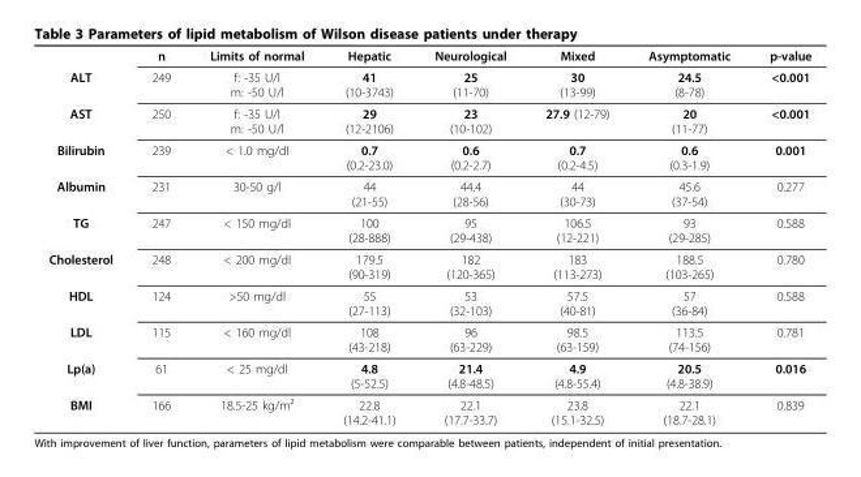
<table><thead><tr><td></td><td>n</td><td>Limits of normal</td><td>Hepatic</td><td>Neurological</td><td>Mixed</td><td>Asymptomatic</td><td>p-value</td></tr></thead><tbody><tr><td>ALT</td><td>249</td><td>f: -35 U/l m: -50 U/l</td><td>41 (10-3743)</td><td>25 (11-70)</td><td>30 (13-99)</td><td>24.5 (8-78)</td><td>&lt;0.001</td></tr><tr><td>AST</td><td>250</td><td>f: -35 U/l m: -50 U/l</td><td>29 (12-2106)</td><td>23 (10-102)</td><td>27.9 (12-79)</td><td>20 (11-77)</td><td>&lt;0.001</td></tr><tr><td>Bilirubin</td><td>239</td><td>&lt; 1.0 mg/dl</td><td>0.7 (0.2-23.0)</td><td>0.6 (0.2-2.7)</td><td>0.7 (0.2-4.5)</td><td>0.6 (0.3-1.9)</td><td>0.001</td></tr><tr><td>Albumin</td><td>231</td><td>30-50 g/l</td><td>44 (21-55)</td><td>44.4 (28-56)</td><td>44 (30-73)</td><td>45.6 (37-54)</td><td>0.277</td></tr><tr><td>TG</td><td>247</td><td>&lt; 150 mg/dl</td><td>100 (28-888)</td><td>95 (29-438)</td><td>106.5 (12-221)</td><td>93 (29-285)</td><td>0.588</td></tr><tr><td>Cholesterol</td><td>248</td><td>&lt; 200 mg/dl</td><td>179.5 (90-319)</td><td>182 (120-365)</td><td>183 (113-273)</td><td>188.5 (103-265)</td><td>0.780</td></tr><tr><td>HDL</td><td>124</td><td>&gt;50 mg/dl</td><td>55 (27-113)</td><td>53 (32-103)</td><td>57.5 (40-81)</td><td>57 (36-84)</td><td>0.588</td></tr><tr><td>LDL</td><td>115</td><td>&lt; 160 mg/dl</td><td>108 (43-218)</td><td>96 (63-229)</td><td>98.5 (63-159)</td><td>113.5 (74-156)</td><td>0.781</td></tr><tr><td>Lp(a)</td><td>61</td><td>&lt; 25 mg/dl</td><td>4.8 (5-52.5)</td><td>21.4 (4.8-48.5)</td><td>4.9 (4.8-55.4)</td><td>20.5 (4.8-38.9)</td><td>0.016</td></tr><tr><td>BMI</td><td>166</td><td>18.5-25 kg/m²</td><td>22.8 (14.2-41.1)</td><td>22.1 (17.7-33.7)</td><td>23.8 (15.1-32.5)</td><td>22.1 (18.7-28.1)</td><td>0.839</td></tr></tbody></table>